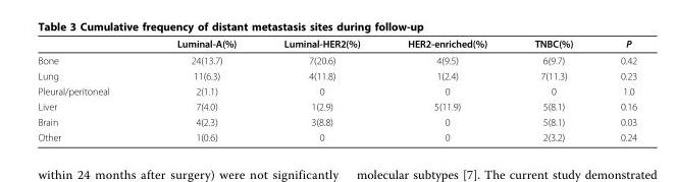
<table><thead><tr><td></td><td>Luminal-A(%)</td><td>Luminal-HER2(%)</td><td>HER2-enriched(%)</td><td>TNBC(%)</td><td>P</td></tr></thead><tbody><tr><td>Bone</td><td>24(13.7)</td><td>7(20.6)</td><td>4(9.5)</td><td>6(9.7)</td><td>0.42</td></tr><tr><td>Lung</td><td>11(6.3)</td><td>4(11.8)</td><td>1(2.4)</td><td>7(11.3)</td><td>0.23</td></tr><tr><td>Pleural/peritoneal</td><td>2(1.1)</td><td>0</td><td>0</td><td>0</td><td>1.0</td></tr><tr><td>Liver</td><td>7(4.0)</td><td>1(2.9)</td><td>5(11.9)</td><td>5(8.1)</td><td>0.16</td></tr><tr><td>Brain</td><td>4(2.3)</td><td>3(8.8)</td><td>0</td><td>5(8.1)</td><td>0.03</td></tr><tr><td>Other</td><td>1(0.6)</td><td>0</td><td>0</td><td>2(3.2)</td><td>0.24</td></tr></tbody></table>